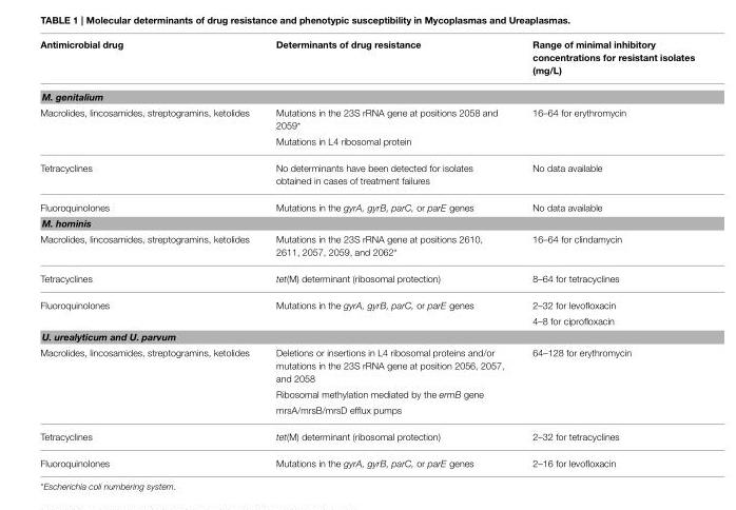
<table><thead><tr><td>Antimicrobial drug</td><td>Determinants of drug resistance</td><td>Range of minimal inhibitory concentrations for resistant isolates (mg/L)</td></tr></thead><tbody><tr><td colspan="3">M. genitalium</td></tr><tr><td rowspan="2">Macrolides, lincosamides, streptogramins, ketolides</td><td>Mutations in the 23S rRNA gene at positions 2058 and 2059*</td><td>16–64 for erythromycin</td></tr><tr><td>Mutations in L4 ribosomal protein</td><td></td></tr><tr><td>Tetracyclines</td><td>No determinants have been detected for isolates obtained in cases of treatment failures</td><td>No data available</td></tr><tr><td>Fluoroquinolones</td><td>Mutations in the gyrA, gyrB, parC, or parE genes</td><td>No data available</td></tr><tr><td colspan="3">M. hominis</td></tr><tr><td>Macrolides, lincosamides, streptogramins, ketolides</td><td>Mutations in the 23S rRNA gene at positions 2610, 2611, 2057, 2059, and 2062*</td><td>16–64 for clindamycin</td></tr><tr><td>Tetracyclines</td><td>tet(M) determinant (ribosomal protection)</td><td>8–64 for tetracyclines</td></tr><tr><td rowspan="2">Fluoroquinolones</td><td>Mutations in the gyrA, gyrB, parC, or parE genes</td><td>2–32 for levofloxacin</td></tr><tr><td></td><td>4–8 for ciprofloxacin</td></tr><tr><td colspan="3">U. urealyticum and U. parvum</td></tr><tr><td rowspan="3">Macrolides, lincosamides, streptogramins, ketolides</td><td>Deletions or insertions in L4 ribosomal proteins and/or mutations in the 23S rRNA gene at position 2056, 2057, and 2058</td><td>64–128 for erythromycin</td></tr><tr><td>Ribosomal methylation mediated by the ermB gene</td><td></td></tr><tr><td>mrsA/mrsB/mrsD efflux pumps</td><td></td></tr><tr><td>Tetracyclines</td><td>tet(M) determinant (ribosomal protection)</td><td>2–32 for tetracyclines</td></tr><tr><td>Fluoroquinolones</td><td>Mutations in the gyrA, gyrB, parC, or parE genes</td><td>2–16 for levofloxacin</td></tr></tbody></table>